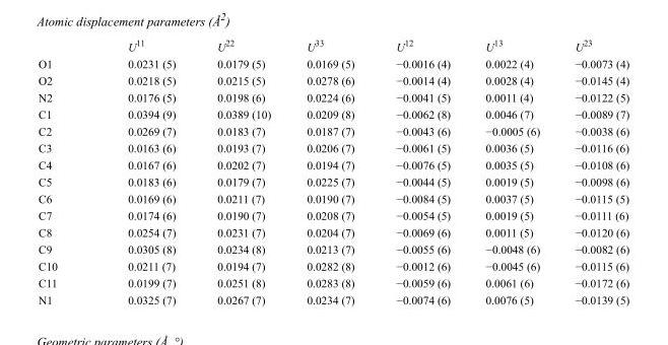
<table><thead><tr><td></td><td>U<sup>11</sup></td><td>U<sup>22</sup></td><td>U<sup>33</sup></td><td>U<sup>12</sup></td><td>U<sup>13</sup></td><td>U<sup>23</sup></td></tr></thead><tbody><tr><td>O1</td><td>0.0231 (5)</td><td>0.0179 (5)</td><td>0.0169 (5)</td><td>−0.0016 (4)</td><td>0.0022 (4)</td><td>−0.0073 (4)</td></tr><tr><td>O2</td><td>0.0218 (5)</td><td>0.0215 (5)</td><td>0.0278 (6)</td><td>−0.0014 (4)</td><td>0.0028 (4)</td><td>−0.0145 (4)</td></tr><tr><td>N2</td><td>0.0176 (5)</td><td>0.0198 (6)</td><td>0.0224 (6)</td><td>−0.0041 (5)</td><td>0.0011 (4)</td><td>−0.0122 (5)</td></tr><tr><td>C1</td><td>0.0394 (9)</td><td>0.0389 (10)</td><td>0.0209 (8)</td><td>−0.0062 (8)</td><td>0.0046 (7)</td><td>−0.0089 (7)</td></tr><tr><td>C2</td><td>0.0269 (7)</td><td>0.0183 (7)</td><td>0.0187 (7)</td><td>−0.0043 (6)</td><td>−0.0005 (6)</td><td>−0.0038 (6)</td></tr><tr><td>C3</td><td>0.0163 (6)</td><td>0.0193 (7)</td><td>0.0206 (7)</td><td>−0.0061 (5)</td><td>0.0036 (5)</td><td>−0.0116 (6)</td></tr><tr><td>C4</td><td>0.0167 (6)</td><td>0.0202 (7)</td><td>0.0194 (7)</td><td>−0.0076 (5)</td><td>0.0035 (5)</td><td>−0.0108 (6)</td></tr><tr><td>C5</td><td>0.0183 (6)</td><td>0.0179 (7)</td><td>0.0225 (7)</td><td>−0.0044 (5)</td><td>0.0019 (5)</td><td>−0.0098 (6)</td></tr><tr><td>C6</td><td>0.0169 (6)</td><td>0.0211 (7)</td><td>0.0190 (7)</td><td>−0.0084 (5)</td><td>0.0037 (5)</td><td>−0.0115 (5)</td></tr><tr><td>C7</td><td>0.0174 (6)</td><td>0.0190 (7)</td><td>0.0208 (7)</td><td>−0.0054 (5)</td><td>0.0019 (5)</td><td>−0.0111 (6)</td></tr><tr><td>C8</td><td>0.0254 (7)</td><td>0.0231 (7)</td><td>0.0204 (7)</td><td>−0.0069 (6)</td><td>0.0011 (5)</td><td>−0.0120 (6)</td></tr><tr><td>C9</td><td>0.0305 (8)</td><td>0.0234 (8)</td><td>0.0213 (7)</td><td>−0.0055 (6)</td><td>−0.0048 (6)</td><td>−0.0082 (6)</td></tr><tr><td>C10</td><td>0.0211 (7)</td><td>0.0194 (7)</td><td>0.0282 (8)</td><td>−0.0012 (6)</td><td>−0.0045 (6)</td><td>−0.0115 (6)</td></tr><tr><td>C11</td><td>0.0199 (7)</td><td>0.0251 (8)</td><td>0.0283 (8)</td><td>−0.0059 (6)</td><td>0.0061 (6)</td><td>−0.0172 (6)</td></tr><tr><td>N1</td><td>0.0325 (7)</td><td>0.0267 (7)</td><td>0.0234 (7)</td><td>−0.0074 (6)</td><td>0.0076 (5)</td><td>−0.0139 (5)</td></tr></tbody></table>